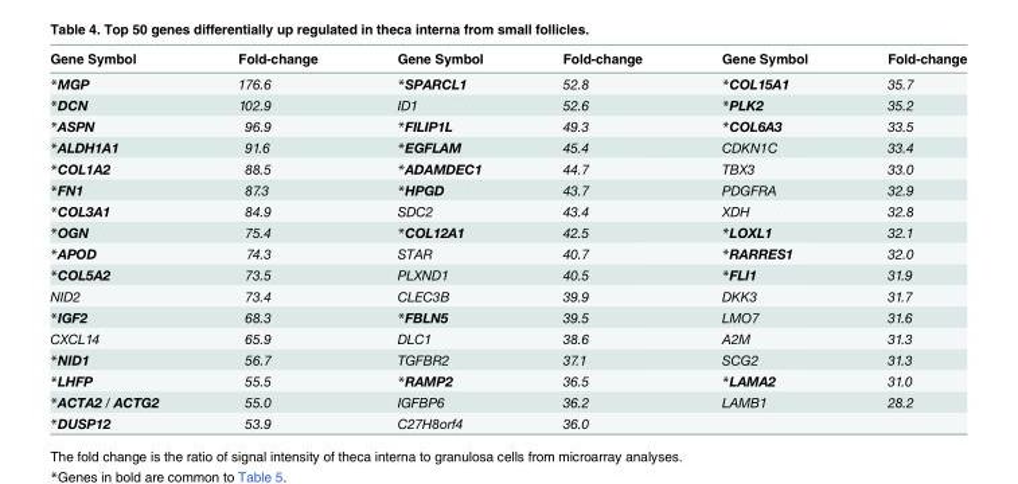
<table><thead><tr><td>Gene Symbol</td><td>Fold-change</td><td>Gene Symbol</td><td>Fold-change</td><td>Gene Symbol</td><td>Fold-change</td></tr></thead><tbody><tr><td>*MGP</td><td>176.6</td><td>*SPARCL1</td><td>52.8</td><td>*COL15A1</td><td>35.7</td></tr><tr><td>*DCN</td><td>102.9</td><td>ID1</td><td>52.6</td><td>*PLK2</td><td>35.2</td></tr><tr><td>*ASPN</td><td>96.9</td><td>*FILIP1L</td><td>49.3</td><td>*COL6A3</td><td>33.5</td></tr><tr><td>*ALDH1A1</td><td>91.6</td><td>*EGFLAM</td><td>45.4</td><td>CDKN1C</td><td>33.4</td></tr><tr><td>*COL1A2</td><td>88.5</td><td>*ADAMDEC1</td><td>44.7</td><td>TBX3</td><td>33.0</td></tr><tr><td>*FN1</td><td>87.3</td><td>*HPGD</td><td>43.7</td><td>PDGFRA</td><td>32.9</td></tr><tr><td>*COL3A1</td><td>84.9</td><td>SDC2</td><td>43.4</td><td>XDH</td><td>32.8</td></tr><tr><td>*OGN</td><td>75.4</td><td>*COL12A1</td><td>42.5</td><td>*LOXL1</td><td>32.1</td></tr><tr><td>*APOD</td><td>74.3</td><td>STAR</td><td>40.7</td><td>*RARRES1</td><td>32.0</td></tr><tr><td>*COL5A2</td><td>73.5</td><td>PLXND1</td><td>40.5</td><td>*FLI1</td><td>31.9</td></tr><tr><td>NID2</td><td>73.4</td><td>CLEC3B</td><td>39.9</td><td>DKK3</td><td>31.7</td></tr><tr><td>*IGF2</td><td>68.3</td><td>*FBLN5</td><td>39.5</td><td>LMO7</td><td>31.6</td></tr><tr><td>CXCL14</td><td>65.9</td><td>DLC1</td><td>38.6</td><td>A2M</td><td>31.3</td></tr><tr><td>*NID1</td><td>56.7</td><td>TGFBR2</td><td>37.1</td><td>SCG2</td><td>31.3</td></tr><tr><td>*LHFP</td><td>55.5</td><td>*RAMP2</td><td>36.5</td><td>*LAMA2</td><td>31.0</td></tr><tr><td>*ACTA2 / ACTG2</td><td>55.0</td><td>IGFBP6</td><td>36.2</td><td>LAMB1</td><td>28.2</td></tr><tr><td>*DUSP12</td><td>53.9</td><td>C27H8orf4</td><td>36.0</td><td></td><td></td></tr></tbody></table>